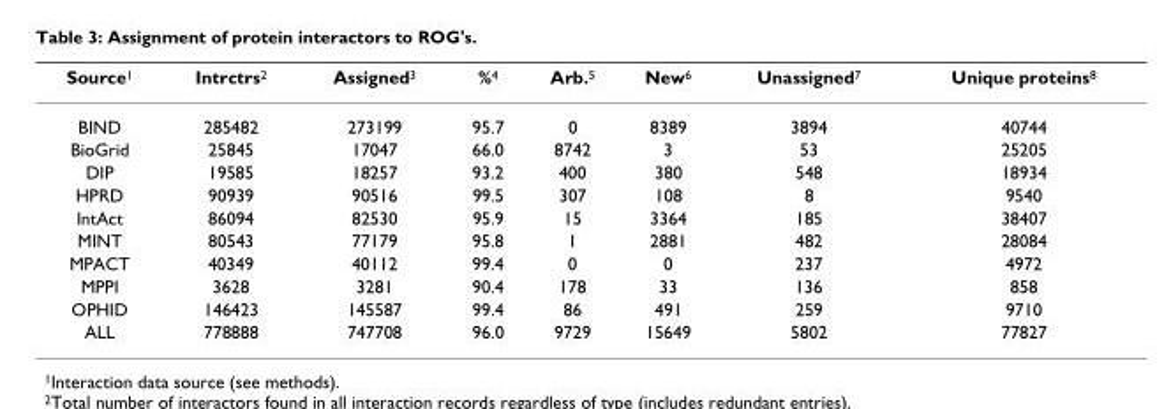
<table><thead><tr><td>Source<sup>1</sup></td><td>Intrctrs<sup>2</sup></td><td>Assigned<sup>3</sup></td><td>%<sup>4</sup></td><td>Arb.<sup>5</sup></td><td>New<sup>6</sup></td><td>Unassigned<sup>7</sup></td><td>Unique proteins<sup>8</sup></td></tr></thead><tbody><tr><td>BIND</td><td>285482</td><td>273199</td><td>95.7</td><td>0</td><td>8389</td><td>3894</td><td>40744</td></tr><tr><td>BioGrid</td><td>25845</td><td>17047</td><td>66.0</td><td>8742</td><td>3</td><td>53</td><td>25205</td></tr><tr><td>DIP</td><td>19585</td><td>18257</td><td>93.2</td><td>400</td><td>380</td><td>548</td><td>18934</td></tr><tr><td>HPRD</td><td>90939</td><td>90516</td><td>99.5</td><td>307</td><td>108</td><td>8</td><td>9540</td></tr><tr><td>IntAct</td><td>86094</td><td>82530</td><td>95.9</td><td>15</td><td>3364</td><td>185</td><td>38407</td></tr><tr><td>MINT</td><td>80543</td><td>77179</td><td>95.8</td><td>1</td><td>2881</td><td>482</td><td>28084</td></tr><tr><td>MPACT</td><td>40349</td><td>40112</td><td>99.4</td><td>0</td><td>0</td><td>237</td><td>4972</td></tr><tr><td>MPPI</td><td>3628</td><td>3281</td><td>90.4</td><td>178</td><td>33</td><td>136</td><td>858</td></tr><tr><td>OPHID</td><td>146423</td><td>145587</td><td>99.4</td><td>86</td><td>491</td><td>259</td><td>9710</td></tr><tr><td>ALL</td><td>778888</td><td>747708</td><td>96.0</td><td>9729</td><td>15649</td><td>5802</td><td>77827</td></tr></tbody></table>